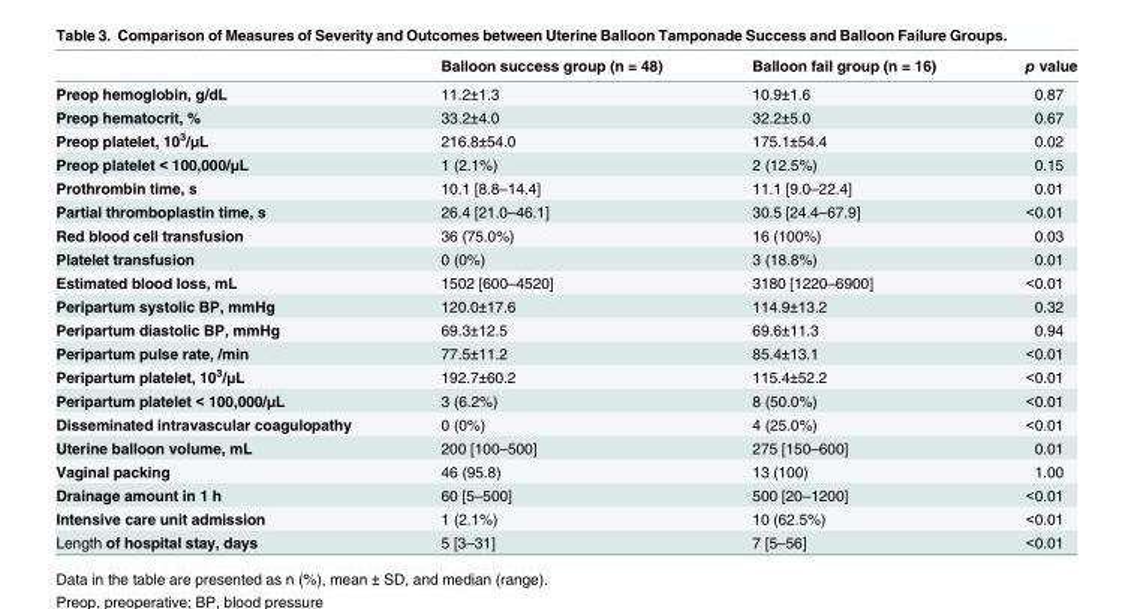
<table><thead><tr><td></td><td>Balloon success group (n = 48)</td><td>Balloon fail group (n = 16)</td><td>p value</td></tr></thead><tbody><tr><td>Preop hemoglobin, g/dL</td><td>11.2±1.3</td><td>10.9±1.6</td><td>0.87</td></tr><tr><td>Preop hematocrit, %</td><td>33.2±4.0</td><td>32.2±5.0</td><td>0.67</td></tr><tr><td>Preop platelet, 10<sup>3</sup>/μL</td><td>216.8±54.0</td><td>175.1±54.4</td><td>0.02</td></tr><tr><td>Preop platelet &lt; 100,000/μL</td><td>1 (2.1%)</td><td>2 (12.5%)</td><td>0.15</td></tr><tr><td>Prothrombin time, s</td><td>10.1 [8.8–14.4]</td><td>11.1 [9.0–22.4]</td><td>0.01</td></tr><tr><td>Partial thromboplastin time, s</td><td>26.4 [21.0–46.1]</td><td>30.5 [24.4–67.9]</td><td>&lt;0.01</td></tr><tr><td>Red blood cell transfusion</td><td>36 (75.0%)</td><td>16 (100%)</td><td>0.03</td></tr><tr><td>Platelet transfusion</td><td>0 (0%)</td><td>3 (18.8%)</td><td>0.01</td></tr><tr><td>Estimated blood loss, mL</td><td>1502 [600–4520]</td><td>3180 [1220–6900]</td><td>&lt;0.01</td></tr><tr><td>Peripartum systolic BP, mmHg</td><td>120.0±17.6</td><td>114.9±13.2</td><td>0.32</td></tr><tr><td>Peripartum diastolic BP, mmHg</td><td>69.3±12.5</td><td>69.6±11.3</td><td>0.94</td></tr><tr><td>Peripartum pulse rate, /min</td><td>77.5±11.2</td><td>85.4±13.1</td><td>&lt;0.01</td></tr><tr><td>Peripartum platelet, 10<sup>3</sup>/μL</td><td>192.7±60.2</td><td>115.4±52.2</td><td>&lt;0.01</td></tr><tr><td>Peripartum platelet &lt; 100,000/μL</td><td>3 (6.2%)</td><td>8 (50.0%)</td><td>&lt;0.01</td></tr><tr><td>Disseminated intravascular coagulopathy</td><td>0 (0%)</td><td>4 (25.0%)</td><td>&lt;0.01</td></tr><tr><td>Uterine balloon volume, mL</td><td>200 [100–500]</td><td>275 [150–600]</td><td>0.01</td></tr><tr><td>Vaginal packing</td><td>46 (95.8)</td><td>13 (100)</td><td>1.00</td></tr><tr><td>Drainage amount in 1 h</td><td>60 [5–500]</td><td>500 [20–1200]</td><td>&lt;0.01</td></tr><tr><td>Intensive care unit admission</td><td>1 (2.1%)</td><td>10 (62.5%)</td><td>&lt;0.01</td></tr><tr><td>Length of hospital stay, days</td><td>5 [3–31]</td><td>7 [5–56]</td><td>&lt;0.01</td></tr></tbody></table>